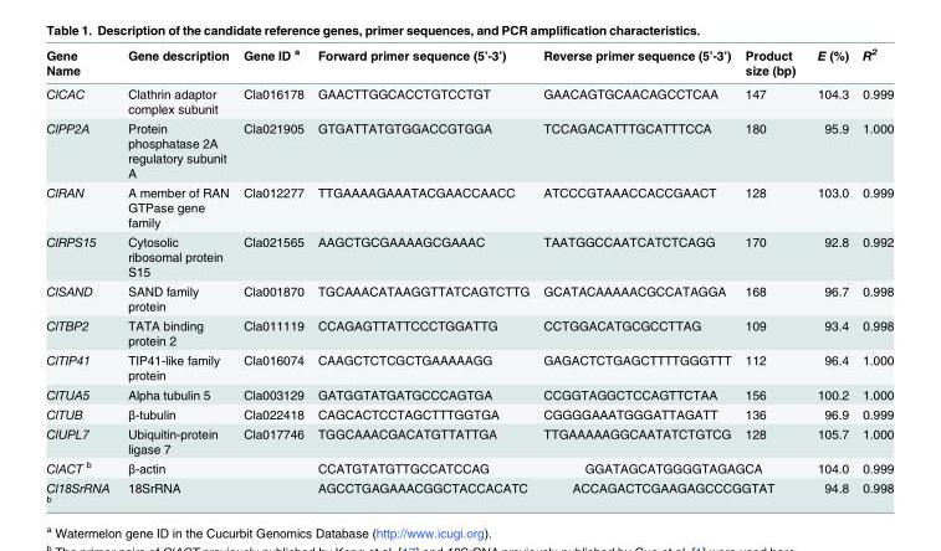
<table><thead><tr><td>Gene Name</td><td>Gene description</td><td>Gene ID <sup>a</sup></td><td>Forward primer sequence (5’-3’)</td><td>Reverse primer sequence (5’-3’)</td><td>Product size (bp)</td><td>E (%)</td><td>R<sup>2</sup></td></tr></thead><tbody><tr><td>ClCAC</td><td>Clathrin adaptor complex subunit</td><td>Cla016178</td><td>GAACTTGGCACCTGTCCTGT</td><td>GAACAGTGCAACAGCCTCAA</td><td>147</td><td>104.3</td><td>0.999</td></tr><tr><td>ClPP2A</td><td>Protein phosphatase 2A regulatory subunit A</td><td>Cla021905</td><td>GTGATTATGTGGACCGTGGA</td><td>TCCAGACATTTGCATTTCCA</td><td>180</td><td>95.9</td><td>1.000</td></tr><tr><td>ClRAN</td><td>A member of RAN GTPase gene family</td><td>Cla012277</td><td>TTGAAAAGAAATACGAACCAACC</td><td>ATCCCGTAAACCACCGAACT</td><td>128</td><td>103.0</td><td>0.999</td></tr><tr><td>ClRPS15</td><td>Cytosolic ribosomal protein S15</td><td>Cla021565</td><td>AAGCTGCGAAAAGCGAAAC</td><td>TAATGGCCAATCATCTCAGG</td><td>170</td><td>92.8</td><td>0.992</td></tr><tr><td>ClSAND</td><td>SAND family protein</td><td>Cla001870</td><td>TGCAAACATAAGGTTATCAGTCTTG</td><td>GCATACAAAAACGCCATAGGA</td><td>168</td><td>96.7</td><td>0.998</td></tr><tr><td>ClTBP2</td><td>TATA binding protein 2</td><td>Cla011119</td><td>CCAGAGTTATTCCCTGGATTG</td><td>CCTGGACATGCGCCTTAG</td><td>109</td><td>93.4</td><td>0.998</td></tr><tr><td>ClTIP41</td><td>TIP41-like family protein</td><td>Cla016074</td><td>CAAGCTCTCGCTGAAAAAGG</td><td>GAGACTCTGAGCTTTTGGGTTT</td><td>112</td><td>96.4</td><td>1.000</td></tr><tr><td>ClTUA5</td><td>Alpha tubulin 5</td><td>Cla003129</td><td>GATGGTATGATGCCCAGTGA</td><td>CCGGTAGGCTCCAGTTCTAA</td><td>156</td><td>100.2</td><td>1.000</td></tr><tr><td>ClTUB</td><td>β-tubulin</td><td>Cla022418</td><td>CAGCACTCCTAGCTTTGGTGA</td><td>CGGGGAAATGGGATTAGATT</td><td>136</td><td>96.9</td><td>0.999</td></tr><tr><td>ClUPL7</td><td>Ubiquitin-protein ligase 7</td><td>Cla017746</td><td>TGGCAAACGACATGTTATTGA</td><td>TTGAAAAAGGCAATATCTGTCG</td><td>128</td><td>105.7</td><td>1.000</td></tr><tr><td>ClACT <sup>b</sup></td><td>β-actin</td><td></td><td>CCATGTATGTTGCCATCCAG</td><td colspan="2">GGATAGCATGGGGTAGAGCA</td><td>104.0</td><td>0.999</td></tr><tr><td>Cl18SrRNA <sup>b</sup></td><td>18SrRNA</td><td></td><td>AGCCTGAGAAACGGCTACCACATC</td><td colspan="2">ACCAGACTCGAAGAGCCCGGTAT</td><td>94.8</td><td>0.998</td></tr></tbody></table>